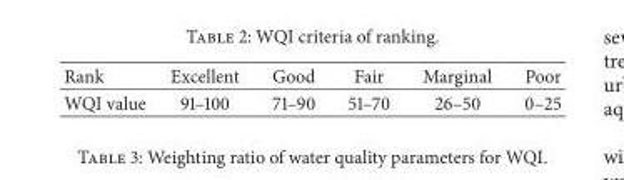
<table><thead><tr><td>Rank</td><td>Excellent</td><td>Good</td><td>Fair</td><td>Marginal</td><td>Poor</td></tr></thead><tbody><tr><td>WQI value</td><td>91–100</td><td>71–90</td><td>51–70</td><td>26–50</td><td>0–25</td></tr></tbody></table>